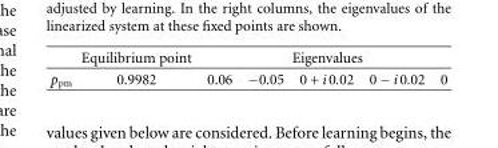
<table><thead><tr><td rowspan="2">p<sub>pm</sub></td><td rowspan="2">Equilibrium point 0.9982</td><td colspan="5">Eigenvalues</td></tr><tr><td>0.06</td><td>−0.05</td><td>0 + i0.02</td><td>0 − i0.02</td><td>0</td></tr></thead><tbody></tbody></table>